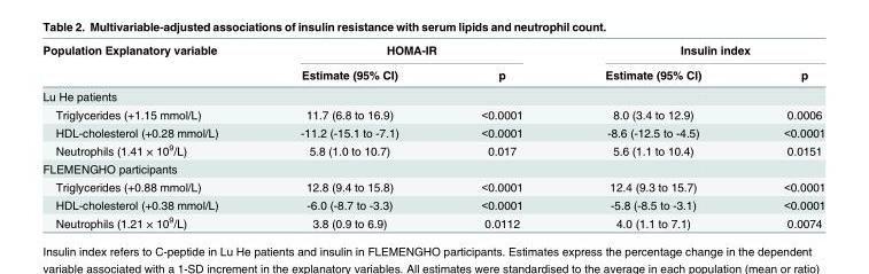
<table><thead><tr><td rowspan="2">Population Explanatory variable</td><td colspan="2">HOMA-IR</td><td colspan="2">Insulin index</td></tr><tr><td>Estimate (95% CI)</td><td>p</td><td>Estimate (95% CI)</td><td>p</td></tr></thead><tbody><tr><td colspan="5">Lu He patients</td></tr><tr><td>Triglycerides (+1.15 mmol/L)</td><td>11.7 (6.8 to 16.9)</td><td>&lt;0.0001</td><td>8.0 (3.4 to 12.9)</td><td>0.0006</td></tr><tr><td>HDL-cholesterol (+0.28 mmol/L)</td><td>-11.2 (-15.1 to -7.1)</td><td>&lt;0.0001</td><td>-8.6 (-12.5 to -4.5)</td><td>&lt;0.0001</td></tr><tr><td>Neutrophils (1.41 × 10<sup>9</sup>/L)</td><td>5.8 (1.0 to 10.7)</td><td>0.017</td><td>5.6 (1.1 to 10.4)</td><td>0.0151</td></tr><tr><td colspan="5">FLEMENGHO participants</td></tr><tr><td>Triglycerides (+0.88 mmol/L)</td><td>12.8 (9.4 to 15.8)</td><td>&lt;0.0001</td><td>12.4 (9.3 to 15.7)</td><td>&lt;0.0001</td></tr><tr><td>HDL-cholesterol (+0.38 mmol/L)</td><td>-6.0 (-8.7 to -3.3)</td><td>&lt;0.0001</td><td>-5.8 (-8.5 to -3.1)</td><td>&lt;0.0001</td></tr><tr><td>Neutrophils (1.21 × 10<sup>9</sup>/L)</td><td>3.8 (0.9 to 6.9)</td><td>0.0112</td><td>4.0 (1.1 to 7.1)</td><td>0.0074</td></tr></tbody></table>